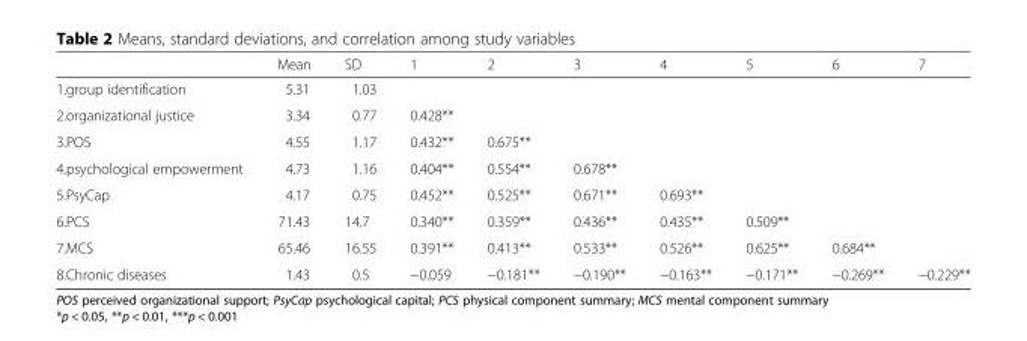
<table><thead><tr><td></td><td>Mean</td><td>SD</td><td>1</td><td>2</td><td>3</td><td>4</td><td>5</td><td>6</td><td>7</td></tr></thead><tbody><tr><td>1.group identification</td><td>5.31</td><td>1.03</td><td></td><td></td><td></td><td></td><td></td><td></td><td></td></tr><tr><td>2.organizational justice</td><td>3.34</td><td>0.77</td><td>0.428**</td><td></td><td></td><td></td><td></td><td></td><td></td></tr><tr><td>3.POS</td><td>4.55</td><td>1.17</td><td>0.432**</td><td>0.675**</td><td></td><td></td><td></td><td></td><td></td></tr><tr><td>4.psychological empowerment</td><td>4.73</td><td>1.16</td><td>0.404**</td><td>0.554**</td><td>0.678**</td><td></td><td></td><td></td><td></td></tr><tr><td>5.PsyCap</td><td>4.17</td><td>0.75</td><td>0.452**</td><td>0.525**</td><td>0.671**</td><td>0.693**</td><td></td><td></td><td></td></tr><tr><td>6.PCS</td><td>71.43</td><td>14.7</td><td>0.340**</td><td>0.359**</td><td>0.436**</td><td>0.435**</td><td>0.509**</td><td></td><td></td></tr><tr><td>7.MCS</td><td>65.46</td><td>16.55</td><td>0.391**</td><td>0.413**</td><td>0.533**</td><td>0.526**</td><td>0.625**</td><td>0.684**</td><td></td></tr><tr><td>8.Chronic diseases</td><td>1.43</td><td>0.5</td><td>−0.059</td><td>−0.181**</td><td>−0.190**</td><td>−0.163**</td><td>−0.171**</td><td>−0.269**</td><td>−0.229**</td></tr></tbody></table>